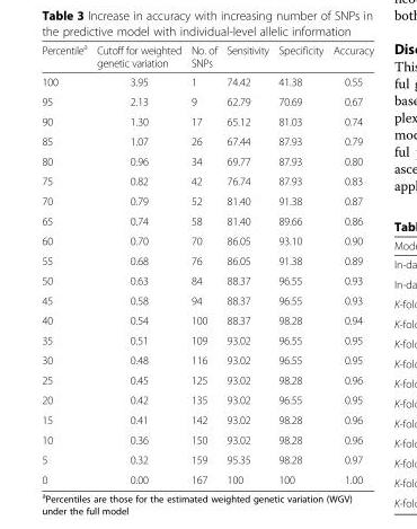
<table><thead><tr><td>Percentile<sup>a</sup></td><td>Cutoff for weighted genetic variation</td><td>No. of SNPs</td><td>Sensitivity</td><td>Specificity</td><td>Accuracy</td></tr></thead><tbody><tr><td>100</td><td>3.95</td><td>1</td><td>74.42</td><td>41.38</td><td>0.55</td></tr><tr><td>95</td><td>2.13</td><td>9</td><td>62.79</td><td>70.69</td><td>0.67</td></tr><tr><td>90</td><td>1.30</td><td>17</td><td>65.12</td><td>81.03</td><td>0.74</td></tr><tr><td>85</td><td>1.07</td><td>26</td><td>67.44</td><td>87.93</td><td>0.79</td></tr><tr><td>80</td><td>0.96</td><td>34</td><td>69.77</td><td>87.93</td><td>0.80</td></tr><tr><td>75</td><td>0.82</td><td>42</td><td>76.74</td><td>87.93</td><td>0.83</td></tr><tr><td>70</td><td>0.79</td><td>52</td><td>81.40</td><td>91.38</td><td>0.87</td></tr><tr><td>65</td><td>0.74</td><td>58</td><td>81.40</td><td>89.66</td><td>0.86</td></tr><tr><td>60</td><td>0.70</td><td>70</td><td>86.05</td><td>93.10</td><td>0.90</td></tr><tr><td>55</td><td>0.68</td><td>76</td><td>86.05</td><td>91.38</td><td>0.89</td></tr><tr><td>50</td><td>0.63</td><td>84</td><td>88.37</td><td>96.55</td><td>0.93</td></tr><tr><td>45</td><td>0.58</td><td>94</td><td>88.37</td><td>96.55</td><td>0.93</td></tr><tr><td>40</td><td>0.54</td><td>100</td><td>88.37</td><td>98.28</td><td>0.94</td></tr><tr><td>35</td><td>0.51</td><td>109</td><td>93.02</td><td>96.55</td><td>0.95</td></tr><tr><td>30</td><td>0.48</td><td>116</td><td>93.02</td><td>96.55</td><td>0.95</td></tr><tr><td>25</td><td>0.45</td><td>125</td><td>93.02</td><td>98.28</td><td>0.96</td></tr><tr><td>20</td><td>0.42</td><td>135</td><td>93.02</td><td>96.55</td><td>0.95</td></tr><tr><td>15</td><td>0.41</td><td>142</td><td>93.02</td><td>98.28</td><td>0.96</td></tr><tr><td>10</td><td>0.36</td><td>150</td><td>93.02</td><td>98.28</td><td>0.96</td></tr><tr><td>5</td><td>0.32</td><td>159</td><td>95.35</td><td>98.28</td><td>0.97</td></tr><tr><td>0</td><td>0.00</td><td>167</td><td>100</td><td>100</td><td>1.00</td></tr></tbody></table>